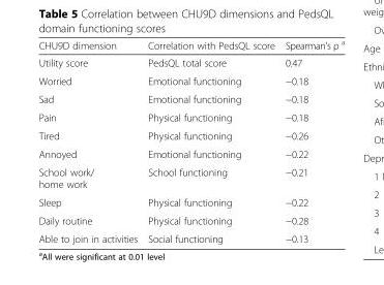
<table><thead><tr><td>CHU9D dimension</td><td>Correlation with PedsQL score</td><td>Spearman’s ρ <sup>a</sup></td></tr></thead><tbody><tr><td>Utility score</td><td>PedsQL total score</td><td>0.47</td></tr><tr><td>Worried</td><td>Emotional functioning</td><td>−0.18</td></tr><tr><td>Sad</td><td>Emotional functioning</td><td>−0.18</td></tr><tr><td>Pain</td><td>Physical functioning</td><td>−0.18</td></tr><tr><td>Tired</td><td>Physical functioning</td><td>−0.26</td></tr><tr><td>Annoyed</td><td>Emotional functioning</td><td>−0.22</td></tr><tr><td>School work/ home work</td><td>School functioning</td><td>−0.21</td></tr><tr><td>Sleep</td><td>Physical functioning</td><td>−0.22</td></tr><tr><td>Daily routine</td><td>Physical functioning</td><td>−0.28</td></tr><tr><td>Able to join in activities</td><td>Social functioning</td><td>−0.13</td></tr></tbody></table>